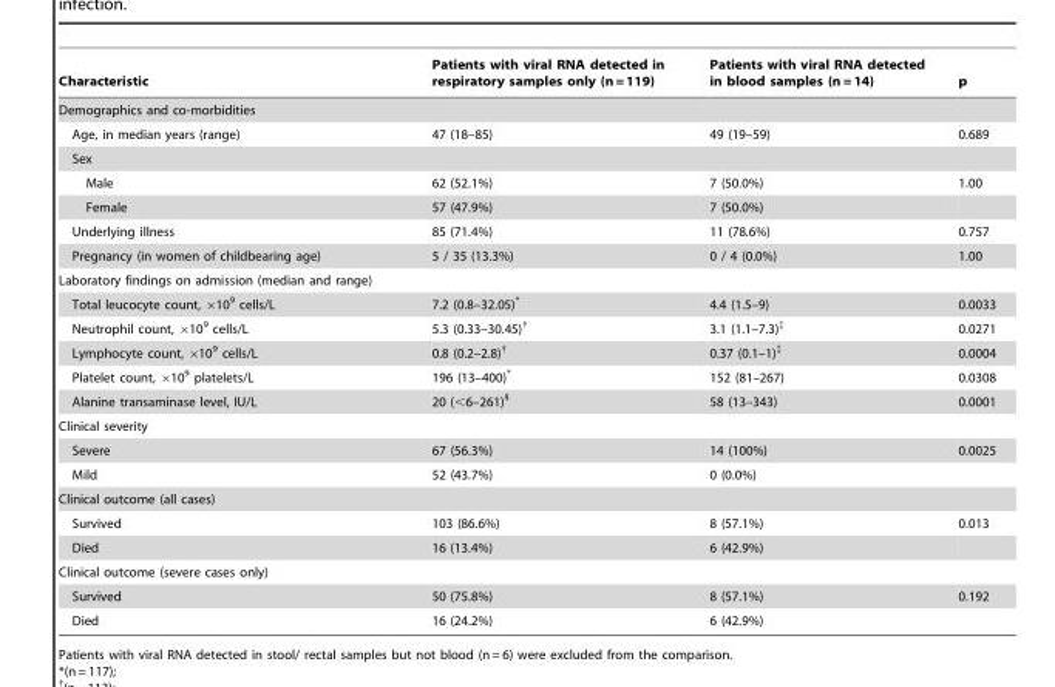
<table><thead><tr><td>Characteristic</td><td>Patients with viral RNA detected in respiratory samples only (n = 119)</td><td>Patients with viral RNA detected in blood samples (n = 14)</td><td>p</td></tr></thead><tbody><tr><td colspan="4">Demographics and co-morbidities</td></tr><tr><td>Age, in median years (range)</td><td>47 (18–85)</td><td>49 (19–59)</td><td>0.689</td></tr><tr><td colspan="4">Sex</td></tr><tr><td>Male</td><td>62 (52.1%)</td><td>7 (50.0%)</td><td>1.00</td></tr><tr><td>Female</td><td>57 (47.9%)</td><td>7 (50.0%)</td><td></td></tr><tr><td>Underlying illness</td><td>85 (71.4%)</td><td>11 (78.6%)</td><td>0.757</td></tr><tr><td>Pregnancy (in women of childbearing age)</td><td>5 / 35 (13.3%)</td><td>0 / 4 (0.0%)</td><td>1.00</td></tr><tr><td colspan="4">Laboratory findings on admission (median and range)</td></tr><tr><td>Total leucocyte count, ×10<sup>9</sup> cells/L</td><td>7.2 (0.8–32.05)*</td><td>4.4 (1.5–9)</td><td>0.0033</td></tr><tr><td>Neutrophil count, ×10<sup>9</sup> cells/L</td><td>5.3 (0.33–30.45)†</td><td>3.1 (1.1–7.3)‡</td><td>0.0271</td></tr><tr><td>Lymphocyte count, ×10<sup>9</sup> cells/L</td><td>0.8 (0.2–2.8)†</td><td>0.37 (0.1–1)‡</td><td>0.0004</td></tr><tr><td>Platelet count, ×10<sup>9</sup> platelets/L</td><td>196 (13–400)*</td><td>152 (81–267)</td><td>0.0308</td></tr><tr><td>Alanine transaminase level, IU/L</td><td>20 (&lt;6–261)§</td><td>58 (13–343)</td><td>0.0001</td></tr><tr><td colspan="4">Clinical severity</td></tr><tr><td>Severe</td><td>67 (56.3%)</td><td>14 (100%)</td><td>0.0025</td></tr><tr><td>Mild</td><td>52 (43.7%)</td><td>0 (0.0%)</td><td></td></tr><tr><td colspan="4">Clinical outcome (all cases)</td></tr><tr><td>Survived</td><td>103 (86.6%)</td><td>8 (57.1%)</td><td>0.013</td></tr><tr><td>Died</td><td>16 (13.4%)</td><td>6 (42.9%)</td><td></td></tr><tr><td colspan="4">Clinical outcome (severe cases only)</td></tr><tr><td>Survived</td><td>50 (75.8%)</td><td>8 (57.1%)</td><td>0.192</td></tr><tr><td>Died</td><td>16 (24.2%)</td><td>6 (42.9%)</td><td></td></tr></tbody></table>